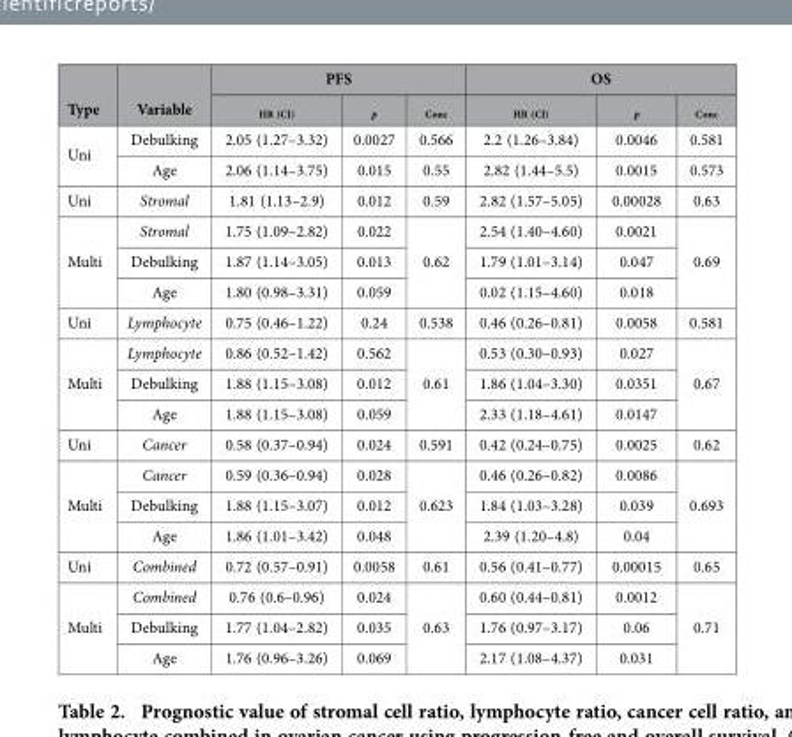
<table><thead><tr><td rowspan="2">Type</td><td rowspan="2">Variable</td><td colspan="3">PFS</td><td colspan="3">OS</td></tr><tr><td><sub>HR (CI)</sub></td><td><sub>p</sub></td><td><sub>Conc</sub></td><td><sub>HR (CI)</sub></td><td><sub>p</sub></td><td><sub>Conc</sub></td></tr></thead><tbody><tr><td rowspan="2">Uni</td><td>Debulking</td><td>2.05 (1.27–3.32)</td><td>0.0027</td><td>0.566</td><td>2.2 (1.26–3.84)</td><td>0.0046</td><td>0.581</td></tr><tr><td>Age</td><td>2.06 (1.14–3.75)</td><td>0.015</td><td>0.55</td><td>2.82 (1.44–5.5)</td><td>0.0015</td><td>0.573</td></tr><tr><td>Uni</td><td>Stromal</td><td>1.81 (1.13–2.9)</td><td>0.012</td><td>0.59</td><td>2.82 (1.57–5.05)</td><td>0.00028</td><td>0.63</td></tr><tr><td rowspan="3">Multi</td><td>Stromal</td><td>1.75 (1.09–2.82)</td><td>0.022</td><td rowspan="3">0.62</td><td>2.54 (1.40–4.60)</td><td>0.0021</td><td rowspan="3">0.69</td></tr><tr><td>Debulking</td><td>1.87 (1.14–3.05)</td><td>0.013</td><td>1.79 (1.01–3.14)</td><td>0.047</td></tr><tr><td>Age</td><td>1.80 (0.98–3.31)</td><td>0.059</td><td>0.02 (1.15–4.60)</td><td>0.018</td></tr><tr><td>Uni</td><td>Lymphocyte</td><td>0.75 (0.46–1.22)</td><td>0.24</td><td>0.538</td><td>0.46 (0.26–0.81)</td><td>0.0058</td><td>0.581</td></tr><tr><td rowspan="3">Multi</td><td>Lymphocyte</td><td>0.86 (0.52–1.42)</td><td>0.562</td><td rowspan="3">0.61</td><td>0.53 (0.30–0.93)</td><td>0.027</td><td rowspan="3">0.67</td></tr><tr><td>Debulking</td><td>1.88 (1.15–3.08)</td><td>0.012</td><td>1.86 (1.04–3.30)</td><td>0.0351</td></tr><tr><td>Age</td><td>1.88 (1.15–3.08)</td><td>0.059</td><td>2.33 (1.18–4.61)</td><td>0.0147</td></tr><tr><td>Uni</td><td>Cancer</td><td>0.58 (0.37–0.94)</td><td>0.024</td><td>0.591</td><td>0.42 (0.24–0.75)</td><td>0.0025</td><td>0.62</td></tr><tr><td rowspan="3">Multi</td><td>Cancer</td><td>0.59 (0.36–0.94)</td><td>0.028</td><td rowspan="3">0.623</td><td>0.46 (0.26–0.82)</td><td>0.0086</td><td rowspan="3">0.693</td></tr><tr><td>Debulking</td><td>1.88 (1.15–3.07)</td><td>0.012</td><td>1.84 (1.03–3.28)</td><td>0.039</td></tr><tr><td>Age</td><td>1.86 (1.01–3.42)</td><td>0.048</td><td>2.39 (1.20–4.8)</td><td>0.04</td></tr><tr><td>Uni</td><td>Combined</td><td>0.72 (0.57–0.91)</td><td>0.0058</td><td>0.61</td><td>0.56 (0.41–0.77)</td><td>0.00015</td><td>0.65</td></tr><tr><td rowspan="3">Multi</td><td>Combined</td><td>0.76 (0.6–0.96)</td><td>0.024</td><td rowspan="3">0.63</td><td>0.60 (0.44–0.81)</td><td>0.0012</td><td rowspan="3">0.71</td></tr><tr><td>Debulking</td><td>1.77 (1.04–2.82)</td><td>0.035</td><td>1.76 (0.97–3.17)</td><td>0.06</td></tr><tr><td>Age</td><td>1.76 (0.96–3.26)</td><td>0.069</td><td>2.17 (1.08–4.37)</td><td>0.031</td></tr></tbody></table>